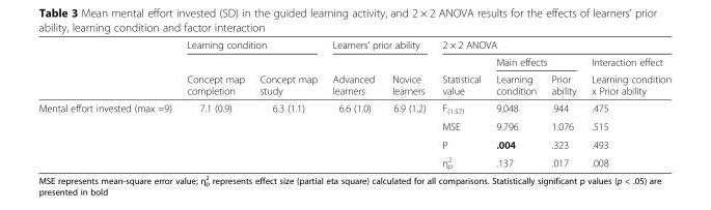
<table><thead><tr><td rowspan="3"></td><td colspan="2">Learning condition</td><td colspan="2">Learners’ prior ability</td><td colspan="4">2 × 2 ANOVA</td></tr><tr><td rowspan="2">Concept map completion</td><td rowspan="2">Concept map study</td><td rowspan="2">Advanced learners</td><td rowspan="2">Novice learners</td><td rowspan="2">Statistical value</td><td colspan="2">Main effects</td><td rowspan="2">Interaction effect Learning condition x Prior ability</td></tr><tr><td>Learning condition</td><td>Prior ability</td></tr></thead><tbody><tr><td rowspan="4">Mental effort invested (max =9)</td><td rowspan="4">7.1 (0.9)</td><td rowspan="4">6.3 (1.1)</td><td rowspan="4">6.6 (1.0)</td><td rowspan="4">6.9 (1.2)</td><td>F<sub>(1.57)</sub></td><td>9.048</td><td>.944</td><td>.475</td></tr><tr><td>MSE</td><td>9.796</td><td>1.076</td><td>.515</td></tr><tr><td>P</td><td>.004</td><td>.323</td><td>.493</td></tr><tr><td>η<sub>p</sub> <sup>2</sup></td><td>.137</td><td>.017</td><td>.008</td></tr></tbody></table>